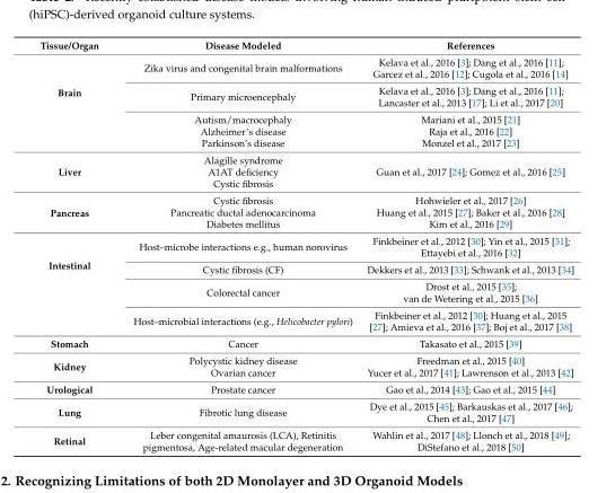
<table><thead><tr><td>Tissue/Organ</td><td>Disease Modeled</td><td>References</td></tr></thead><tbody><tr><td rowspan="5">Brain</td><td>Zika virus and congenital brain malformations</td><td>Kelava et al., 2016 [3]; Dang et al., 2016 [11]; Garcez et al., 2016 [12]; Cugola et al., 2016 [14]</td></tr><tr><td>Primary microencephaly</td><td>Kelava et al., 2016 [3]; Dang et al., 2016 [11]; Lancaster et al., 2013 [17]; Li et al., 2017 [20]</td></tr><tr><td>Autism/macrocephaly</td><td>Mariani et al., 2015 [21]</td></tr><tr><td>Alzheimer’s disease</td><td>Raja et al., 2016 [22]</td></tr><tr><td>Parkinson’s disease</td><td>Monzel et al., 2017 [23]</td></tr><tr><td>Liver</td><td>Alagille syndrome A1AT deficiency Cystic fibrosis</td><td>Guan et al., 2017 [24]; Gomez et al., 2016 [25]</td></tr><tr><td rowspan="3">Pancreas</td><td>Cystic fibrosis</td><td>Hohwieler et al., 2017 [26]</td></tr><tr><td>Pancreatic ductal adenocarcinoma</td><td>Huang et al., 2015 [27]; Baker et al., 2016 [28]</td></tr><tr><td>Diabetes mellitus</td><td>Kim et al., 2016 [29]</td></tr><tr><td rowspan="4">Intestinal</td><td>Host–microbe interactions e.g., human norovirus</td><td>Finkbeiner et al., 2012 [30]; Yin et al., 2015 [31]; Ettayebi et al., 2016 [32]</td></tr><tr><td>Cystic fibrosis (CF)</td><td>Dekkers et al., 2013 [33]; Schwank et al., 2013 [34]</td></tr><tr><td>Colorectal cancer</td><td>Drost et al., 2015 [35]; van de Wetering et al., 2015 [36]</td></tr><tr><td>Host–microbial interactions (e.g., Helicobacter pylori)</td><td>Finkbeiner et al., 2012 [30]; Huang et al., 2015 [27]; Amieva et al., 2016 [37]; Boj et al., 2017 [38]</td></tr><tr><td>Stomach</td><td>Cancer</td><td>Takasato et al., 2015 [39]</td></tr><tr><td rowspan="2">Kidney</td><td>Polycystic kidney disease</td><td>Freedman et al., 2015 [40]</td></tr><tr><td>Ovarian cancer</td><td>Yucer et al., 2017 [41]; Lawrenson et al., 2013 [42]</td></tr><tr><td>Urological</td><td>Prostate cancer</td><td>Gao et al., 2014 [43]; Gao et al., 2015 [44]</td></tr><tr><td>Lung</td><td>Fibrotic lung disease</td><td>Dye et al., 2015 [45]; Barkauskas et al., 2017 [46]; Chen et al., 2017 [47]</td></tr><tr><td>Retinal</td><td>Leber congenital amaurosis (LCA), Retinitis pigmentosa, Age-related macular degeneration</td><td>Wahlin et al., 2017 [48]; Llonch et al., 2018 [49]; DiStefano et al., 2018 [50]</td></tr></tbody></table>